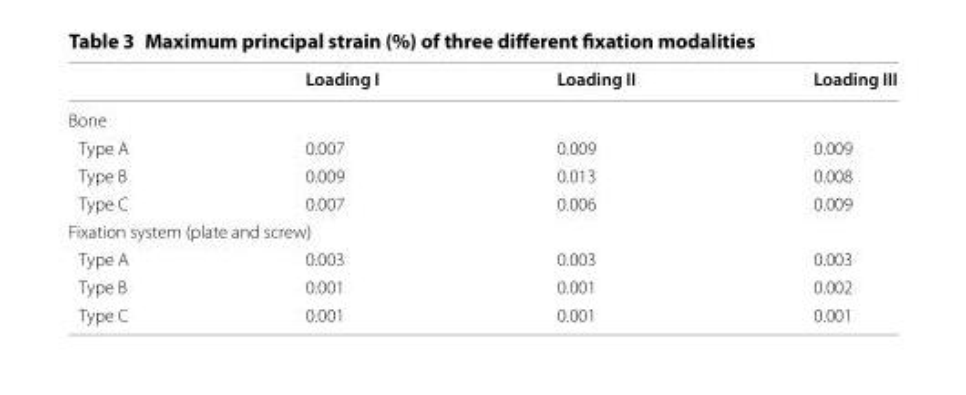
<table><thead><tr><td></td><td>Loading I</td><td>Loading II</td><td>Loading III</td></tr></thead><tbody><tr><td colspan="4">Bone</td></tr><tr><td>Type A</td><td>0.007</td><td>0.009</td><td>0.009</td></tr><tr><td>Type B</td><td>0.009</td><td>0.013</td><td>0.008</td></tr><tr><td>Type C</td><td>0.007</td><td>0.006</td><td>0.009</td></tr><tr><td colspan="4">Fixation system (plate and screw)</td></tr><tr><td>Type A</td><td>0.003</td><td>0.003</td><td>0.003</td></tr><tr><td>Type B</td><td>0.001</td><td>0.001</td><td>0.002</td></tr><tr><td>Type C</td><td>0.001</td><td>0.001</td><td>0.001</td></tr></tbody></table>